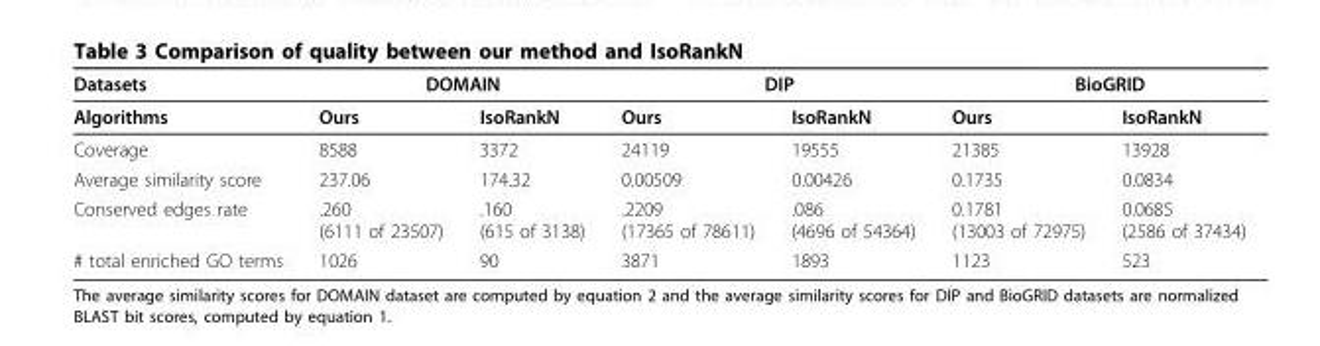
<table><thead><tr><td rowspan="2">Datasets Algorithms</td><td colspan="2">DOMAIN</td><td colspan="2">DIP</td><td colspan="2">BioGRID</td></tr><tr><td>Ours</td><td>IsoRankN</td><td>Ours</td><td>IsoRankN</td><td>Ours</td><td>IsoRankN</td></tr></thead><tbody><tr><td>Coverage</td><td>8588</td><td>3372</td><td>24119</td><td>19555</td><td>21385</td><td>13928</td></tr><tr><td>Average similarity score</td><td>237.06</td><td>174.32</td><td>0.00509</td><td>0.00426</td><td>0.1735</td><td>0.0834</td></tr><tr><td>Conserved edges rate</td><td>.260 (6111 of 23507)</td><td>.160 (615 of 3138)</td><td>.2209 (17365 of 78611)</td><td>.086 (4696 of 54364)</td><td>0.1781 (13003 of 72975)</td><td>0.0685 (2586 of 37434)</td></tr><tr><td># total enriched GO terms</td><td>1026</td><td>90</td><td>3871</td><td>1893</td><td>1123</td><td>523</td></tr></tbody></table>